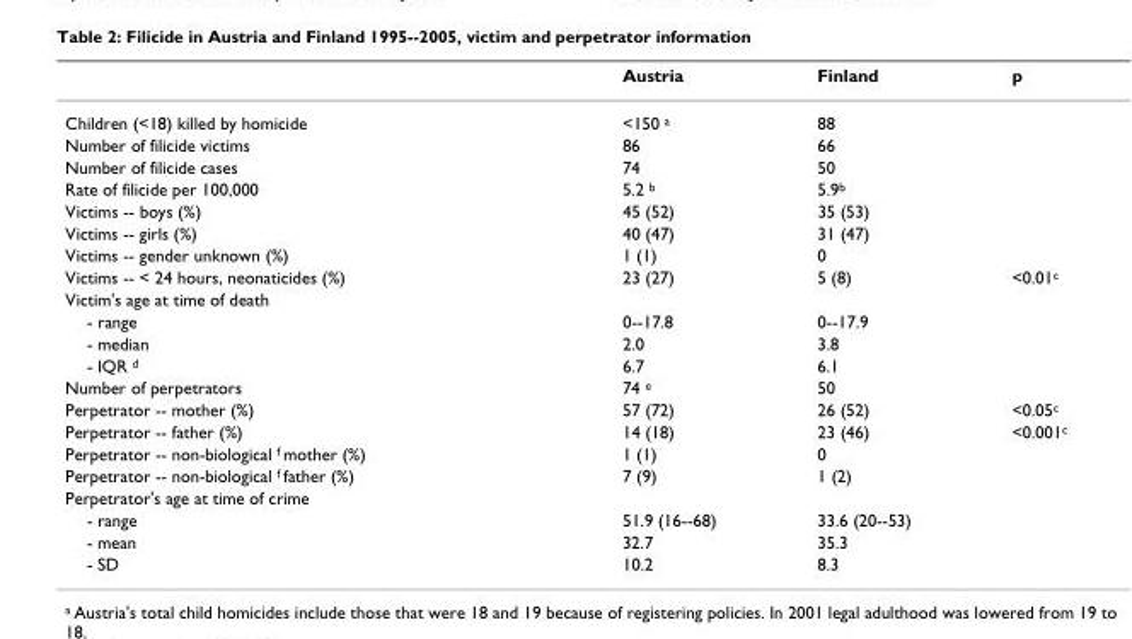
<table><thead><tr><td></td><td>Austria</td><td>Finland</td><td>p</td></tr></thead><tbody><tr><td>Children (&lt;18) killed by homicide</td><td>&lt;150 <sup>a</sup></td><td>88</td><td></td></tr><tr><td>Number of filicide victims</td><td>86</td><td>66</td><td></td></tr><tr><td>Number of filicide cases</td><td>74</td><td>50</td><td></td></tr><tr><td>Rate of filicide per 100,000</td><td>5.2 <sup>b</sup></td><td>5.9<sup>b</sup></td><td></td></tr><tr><td>Victims -- boys (%)</td><td>45 (52)</td><td>35 (53)</td><td></td></tr><tr><td>Victims -- girls (%)</td><td>40 (47)</td><td>31 (47)</td><td></td></tr><tr><td>Victims -- gender unknown (%)</td><td>1 (1)</td><td>0</td><td></td></tr><tr><td>Victims -- &lt; 24 hours, neonaticides (%)</td><td>23 (27)</td><td>5 (8)</td><td>&lt;0.01<sup>c</sup></td></tr><tr><td colspan="4">Victim&#x27;s age at time of death</td></tr><tr><td>- range</td><td>0--17.8</td><td>0--17.9</td><td></td></tr><tr><td>- median</td><td>2.0</td><td>3.8</td><td></td></tr><tr><td>- IQR <sup>d</sup></td><td>6.7</td><td>6.1</td><td></td></tr><tr><td>Number of perpetrators</td><td>74 <sup>e</sup></td><td>50</td><td></td></tr><tr><td>Perpetrator -- mother (%)</td><td>57 (72)</td><td>26 (52)</td><td>&lt;0.05<sup>c</sup></td></tr><tr><td>Perpetrator -- father (%)</td><td>14 (18)</td><td>23 (46)</td><td>&lt;0.001<sup>c</sup></td></tr><tr><td>Perpetrator -- non-biological <sup>f</sup> mother (%)</td><td>1 (1)</td><td>0</td><td></td></tr><tr><td>Perpetrator -- non-biological <sup>f</sup> father (%)</td><td>7 (9)</td><td>1 (2)</td><td></td></tr><tr><td colspan="4">Perpetrator&#x27;s age at time of crime</td></tr><tr><td>- range</td><td>51.9 (16--68)</td><td>33.6 (20--53)</td><td></td></tr><tr><td>- mean</td><td>32.7</td><td>35.3</td><td></td></tr><tr><td>- SD</td><td>10.2</td><td>8.3</td><td></td></tr></tbody></table>